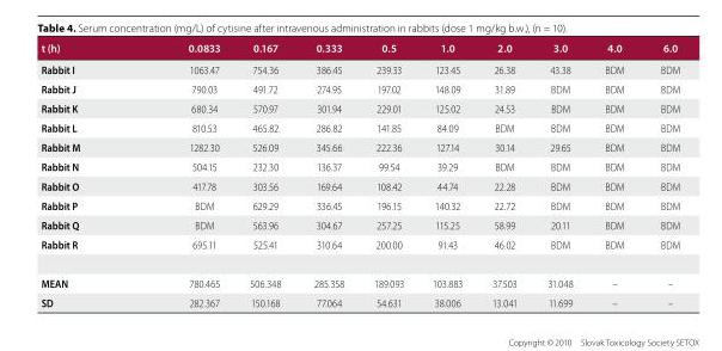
<table><thead><tr><td>t (h)</td><td>0.0833</td><td>0.167</td><td>0.333</td><td>0.5</td><td>1.0</td><td>2.0</td><td>3.0</td><td>4.0</td><td>6.0</td></tr></thead><tbody><tr><td>Rabbit I</td><td>1063.47</td><td>754.36</td><td>386.45</td><td>239.33</td><td>123.45</td><td>26.38</td><td>43.38</td><td>BDM</td><td>BDM</td></tr><tr><td>Rabbit J</td><td>790.03</td><td>491.72</td><td>274.95</td><td>197.02</td><td>148.09</td><td>31.89</td><td>BDM</td><td>BDM</td><td>BDM</td></tr><tr><td>Rabbit K</td><td>680.34</td><td>570.97</td><td>301.94</td><td>229.01</td><td>125.02</td><td>24.53</td><td>BDM</td><td>BDM</td><td>BDM</td></tr><tr><td>Rabbit L</td><td>810.53</td><td>465.82</td><td>286.82</td><td>141.85</td><td>84.09</td><td>BDM</td><td>BDM</td><td>BDM</td><td>BDM</td></tr><tr><td>Rabbit M</td><td>1282.30</td><td>526.09</td><td>345.66</td><td>222.36</td><td>127.14</td><td>30.14</td><td>29.65</td><td>BDM</td><td>BDM</td></tr><tr><td>Rabbit N</td><td>504.15</td><td>232.30</td><td>136.37</td><td>99.54</td><td>39.29</td><td>BDM</td><td>BDM</td><td>BDM</td><td>BDM</td></tr><tr><td>Rabbit O</td><td>417.78</td><td>303.56</td><td>169.64</td><td>108.42</td><td>44.74</td><td>22.28</td><td>BDM</td><td>BDM</td><td>BDM</td></tr><tr><td>Rabbit P</td><td>BDM</td><td>629.29</td><td>336.45</td><td>196.15</td><td>140.32</td><td>22.72</td><td>BDM</td><td>BDM</td><td>BDM</td></tr><tr><td>Rabbit Q</td><td>BDM</td><td>563.96</td><td>304.67</td><td>257.25</td><td>115.25</td><td>58.99</td><td>20.11</td><td>BDM</td><td>BDM</td></tr><tr><td>Rabbit R</td><td>695.11</td><td>525.41</td><td>310.64</td><td>200.00</td><td>91.43</td><td>46.02</td><td>BDM</td><td>BDM</td><td>BDM</td></tr><tr><td>MEAN</td><td>780.465</td><td>506.348</td><td>285.358</td><td>189.093</td><td>103.883</td><td>37.503</td><td>31.048</td><td>–</td><td>–</td></tr><tr><td>SD</td><td>282.367</td><td>150.168</td><td>77.064</td><td>54.631</td><td>38.006</td><td>13.041</td><td>11.699</td><td>–</td><td>–</td></tr></tbody></table>